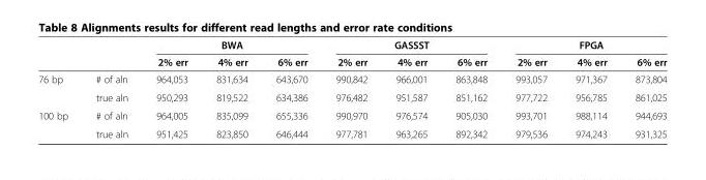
<table><thead><tr><td rowspan="2"></td><td rowspan="2"></td><td colspan="3">BWA</td><td colspan="3">GASSST</td><td colspan="3">FPGA</td></tr><tr><td>2% err</td><td>4% err</td><td>6% err</td><td>2% err</td><td>4% err</td><td>6% err</td><td>2% err</td><td>4% err</td><td>6% err</td></tr></thead><tbody><tr><td rowspan="2">76 bp</td><td># of aln</td><td>964,053</td><td>831,634</td><td>643,670</td><td>990,842</td><td>966,001</td><td>863,848</td><td>993,057</td><td>971,367</td><td>873,804</td></tr><tr><td>true aln</td><td>950,293</td><td>819,522</td><td>634,386</td><td>976,482</td><td>951,587</td><td>851,162</td><td>977,722</td><td>956,785</td><td>861,025</td></tr><tr><td rowspan="2">100 bp</td><td># of aln</td><td>964,005</td><td>835,099</td><td>655,336</td><td>990,970</td><td>976,574</td><td>905,030</td><td>993,701</td><td>988,114</td><td>944,693</td></tr><tr><td>true aln</td><td>951,425</td><td>823,850</td><td>646,444</td><td>977,781</td><td>963,265</td><td>892,342</td><td>979,536</td><td>974,243</td><td>931,325</td></tr></tbody></table>